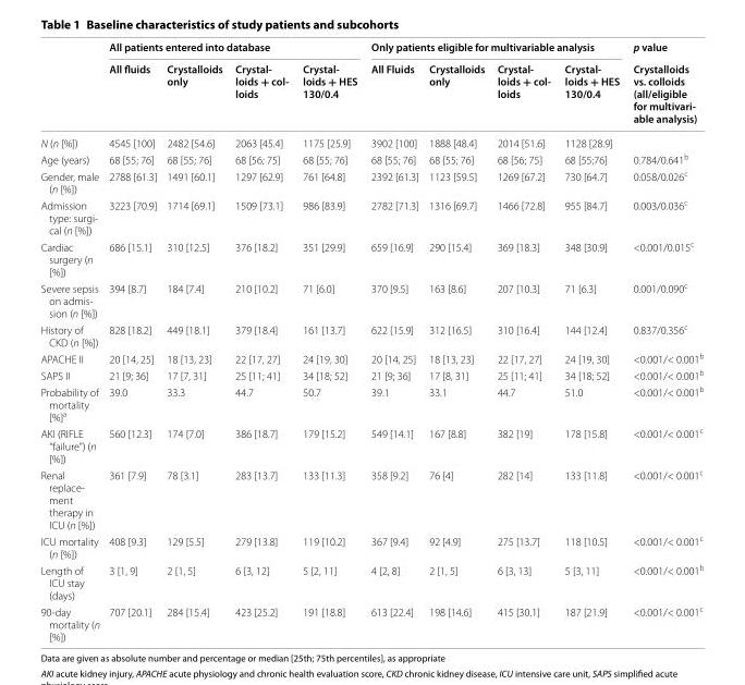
<table><thead><tr><td rowspan="2"></td><td colspan="4">All patients entered into database</td><td colspan="4">Only patients eligible for multivariable analysis</td><td rowspan="2">p value Crystalloids vs. colloids (all/eligible for multivari‑ able analysis)</td></tr><tr><td>All fluids</td><td>Crystalloids only</td><td>Crystal‑ loids + col‑ loids</td><td>Crystal‑ loids + HES 130/0.4</td><td>All Fluids</td><td>Crystalloids only</td><td>Crystal‑ loids + col‑ loids</td><td>Crystal‑ loids + HES 130/0.4</td></tr></thead><tbody><tr><td>N (n [%])</td><td>4545 [100]</td><td>2482 [54.6]</td><td>2063 [45.4]</td><td>1175 [25.9]</td><td>3902 [100]</td><td>1888 [48.4]</td><td>2014 [51.6]</td><td>1128 [28.9]</td><td></td></tr><tr><td>Age (years)</td><td>68 [55; 76]</td><td>68 [55; 76]</td><td>68 [56; 75]</td><td>68 [55; 76]</td><td>68 [55; 76]</td><td>68 [55; 76]</td><td>68 [56; 75]</td><td>68 [55;76]</td><td>0.784/0.641<sup>b</sup></td></tr><tr><td>Gender, male (n [%])</td><td>2788 [61.3]</td><td>1491 [60.1]</td><td>1297 [62.9]</td><td>761 [64.8]</td><td>2392 [61.3]</td><td>1123 [59.5]</td><td>1269 [67.2]</td><td>730 [64.7]</td><td>0.058/0.026<sup>c</sup></td></tr><tr><td>Admission type: surgi- cal (n [%])</td><td>3223 [70.9]</td><td>1714 [69.1]</td><td>1509 [73.1]</td><td>986 [83.9]</td><td>2782 [71.3]</td><td>1316 [69.7]</td><td>1466 [72.8]</td><td>955 [84.7]</td><td>0.003/0.036<sup>c</sup></td></tr><tr><td>Cardiac surgery (n [%])</td><td>686 [15.1]</td><td>310 [12.5]</td><td>376 [18.2]</td><td>351 [29.9]</td><td>659 [16.9]</td><td>290 [15.4]</td><td>369 [18.3]</td><td>348 [30.9]</td><td>&lt;0.001/0.015<sup>c</sup></td></tr><tr><td>Severe sepsis on admis- sion (n [%])</td><td>394 [8.7]</td><td>184 [7.4]</td><td>210 [10.2]</td><td>71 [6.0]</td><td>370 [9.5]</td><td>163 [8.6]</td><td>207 [10.3]</td><td>71 [6.3]</td><td>0.001/0.090<sup>c</sup></td></tr><tr><td>History of CKD (n [%])</td><td>828 [18.2]</td><td>449 [18.1]</td><td>379 [18.4]</td><td>161 [13.7]</td><td>622 [15.9]</td><td>312 [16.5]</td><td>310 [16.4]</td><td>144 [12.4]</td><td>0.837/0.356<sup>c</sup></td></tr><tr><td>APACHE II</td><td>20 [14, 25]</td><td>18 [13, 23]</td><td>22 [17, 27]</td><td>24 [19, 30]</td><td>20 [14, 25]</td><td>18 [13, 23]</td><td>22 [17, 27]</td><td>24 [19, 30]</td><td>&lt;0.001/&lt; 0.001<sup>b</sup></td></tr><tr><td>SAPS II</td><td>21 [9; 36]</td><td>17 [7, 31]</td><td>25 [11; 41]</td><td>34 [18; 52]</td><td>21 [9; 36]</td><td>17 [8, 31]</td><td>25 [11; 41]</td><td>34 [18; 52]</td><td>&lt;0.001/&lt; 0.001<sup>b</sup></td></tr><tr><td>Probability of mortality [%]<sup>a</sup></td><td>39.0</td><td>33.3</td><td>44.7</td><td>50.7</td><td>39.1</td><td>33.1</td><td>44.7</td><td>51.0</td><td>&lt;0.001/&lt; 0.001<sup>b</sup></td></tr><tr><td>AKI (RIFLE “failure”) (n [%])</td><td>560 [12.3]</td><td>174 [7.0]</td><td>386 [18.7]</td><td>179 [15.2]</td><td>549 [14.1]</td><td>167 [8.8]</td><td>382 [19]</td><td>178 [15.8]</td><td>&lt;0.001/&lt; 0.001<sup>c</sup></td></tr><tr><td>Renal replace- ment therapy in ICU (n [%])</td><td>361 [7.9]</td><td>78 [3.1]</td><td>283 [13.7]</td><td>133 [11.3]</td><td>358 [9.2]</td><td>76 [4]</td><td>282 [14]</td><td>133 [11.8]</td><td>&lt;0.001/&lt; 0.001<sup>c</sup></td></tr><tr><td>ICU mortality (n [%])</td><td>408 [9.3]</td><td>129 [5.5]</td><td>279 [13.8]</td><td>119 [10.2]</td><td>367 [9.4]</td><td>92 [4.9]</td><td>275 [13.7]</td><td>118 [10.5]</td><td>&lt;0.001/&lt; 0.001<sup>c</sup></td></tr><tr><td>Length of ICU stay (days)</td><td>3 [1, 9]</td><td>2 [1, 5]</td><td>6 [3, 12]</td><td>5 [2, 11]</td><td>4 [2, 8]</td><td>2 [1, 5]</td><td>6 [3, 13]</td><td>5 [3, 11]</td><td>&lt;0.001/&lt; 0.001<sup>b</sup></td></tr><tr><td>90-day mortality (n [%])</td><td>707 [20.1]</td><td>284 [15.4]</td><td>423 [25.2]</td><td>191 [18.8]</td><td>613 [22.4]</td><td>198 [14.6]</td><td>415 [30.1]</td><td>187 [21.9]</td><td>&lt;0.001/&lt; 0.001<sup>c</sup></td></tr></tbody></table>